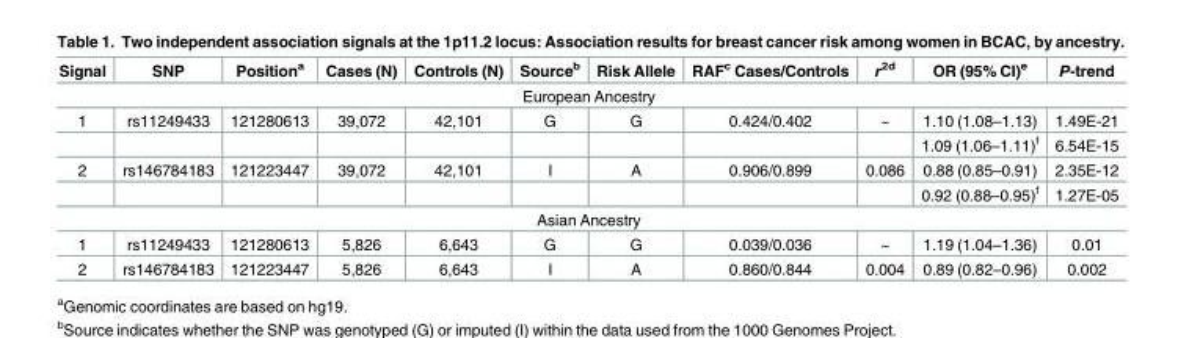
<table><thead><tr><td>Signal</td><td>SNP</td><td>Position<sup>a</sup></td><td>Cases (N)</td><td>Controls (N)</td><td>Source<sup>b</sup></td><td>Risk Allele</td><td>RAF<sup>c</sup> Cases/Controls</td><td>r<sup>2d</sup></td><td>OR (95% CI)<sup>e</sup></td><td>P-trend</td></tr></thead><tbody><tr><td colspan="11">European Ancestry</td></tr><tr><td rowspan="2">1</td><td>rs11249433</td><td>121280613</td><td>39,072</td><td>42,101</td><td>G</td><td>G</td><td>0.424/0.402</td><td>~</td><td>1.10 (1.08–1.13)</td><td>1.49E-21</td></tr><tr><td></td><td></td><td></td><td></td><td></td><td></td><td></td><td></td><td>1.09 (1.06–1.11)<sup>f</sup></td><td>6.54E-15</td></tr><tr><td rowspan="2">2</td><td>rs146784183</td><td>121223447</td><td>39,072</td><td>42,101</td><td>I</td><td>A</td><td>0.906/0.899</td><td>0.086</td><td>0.88 (0.85–0.91)</td><td>2.35E-12</td></tr><tr><td></td><td></td><td></td><td></td><td></td><td></td><td></td><td></td><td>0.92 (0.88–0.95)<sup>f</sup></td><td>1.27E-05</td></tr><tr><td colspan="11">Asian Ancestry</td></tr><tr><td>1</td><td>rs11249433</td><td>121280613</td><td>5,826</td><td>6,643</td><td>G</td><td>G</td><td>0.039/0.036</td><td>~</td><td>1.19 (1.04–1.36)</td><td>0.01</td></tr><tr><td>2</td><td>rs146784183</td><td>121223447</td><td>5,826</td><td>6,643</td><td>I</td><td>A</td><td>0.860/0.844</td><td>0.004</td><td>0.89 (0.82–0.96)</td><td>0.002</td></tr></tbody></table>